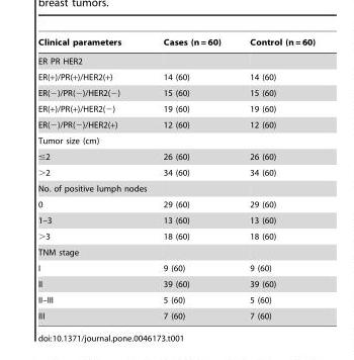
<table><thead><tr><td>Clinical parameters</td><td>Cases (n = 60)</td><td>Control (n = 60)</td></tr></thead><tbody><tr><td colspan="3">ER PR HER2</td></tr><tr><td>ER(+)/PR(+)/HER2(+)</td><td>14 (60)</td><td>14 (60)</td></tr><tr><td>ER(−)/PR(−)/HER2(−)</td><td>15 (60)</td><td>15 (60)</td></tr><tr><td>ER(+)/PR(+)/HER2(−)</td><td>19 (60)</td><td>19 (60)</td></tr><tr><td>ER(−)/PR(−)/HER2(+)</td><td>12 (60)</td><td>12 (60)</td></tr><tr><td colspan="3">Tumor size (cm)</td></tr><tr><td>≤2</td><td>26 (60)</td><td>26 (60)</td></tr><tr><td>&gt;2</td><td>34 (60)</td><td>34 (60)</td></tr><tr><td colspan="3">No. of positive lumph nodes</td></tr><tr><td>0</td><td>29 (60)</td><td>29 (60)</td></tr><tr><td>1–3</td><td>13 (60)</td><td>13 (60)</td></tr><tr><td>&gt;3</td><td>18 (60)</td><td>18 (60)</td></tr><tr><td colspan="3">TNM stage</td></tr><tr><td>I</td><td>9 (60)</td><td>9 (60)</td></tr><tr><td>II</td><td>39 (60)</td><td>39 (60)</td></tr><tr><td>II–III</td><td>5 (60)</td><td>5 (60)</td></tr><tr><td>III</td><td>7 (60)</td><td>7 (60)</td></tr></tbody></table>